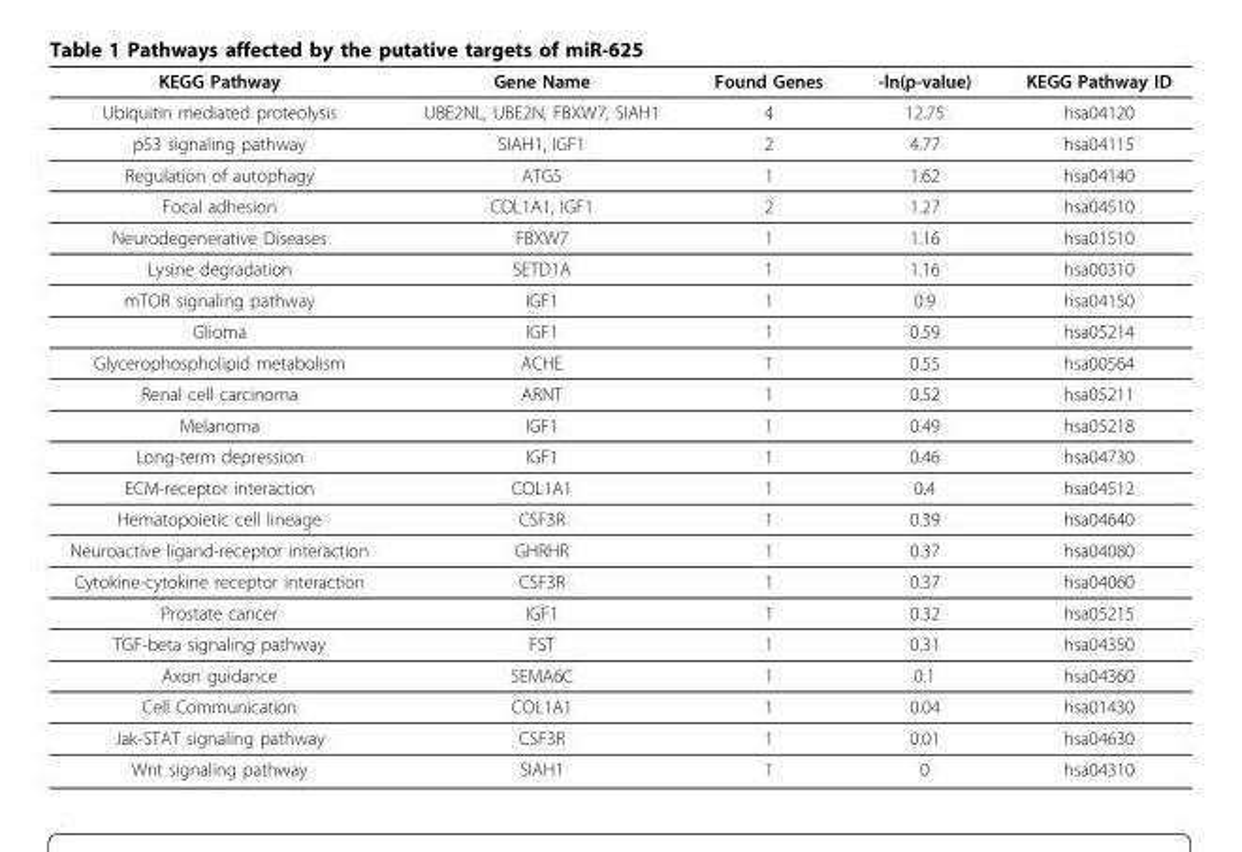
<table><thead><tr><td>KEGG Pathway</td><td>Gene Name</td><td>Found Genes</td><td>-ln(p-value)</td><td>KEGG Pathway ID</td></tr></thead><tbody><tr><td>Ubiquitin mediated proteolysis</td><td>UBE2NL, UBE2N, FBXW7, SIAH1</td><td>4</td><td>12.75</td><td>hsa04120</td></tr><tr><td>p53 signaling pathway</td><td>SIAH1, IGF1</td><td>2</td><td>4.77</td><td>hsa04115</td></tr><tr><td>Regulation of autophagy</td><td>ATG5</td><td>1</td><td>1.62</td><td>hsa04140</td></tr><tr><td>Focal adhesion</td><td>COL1A1, IGF1</td><td>2</td><td>1.27</td><td>hsa04510</td></tr><tr><td>Neurodegenerative Diseases</td><td>FBXW7</td><td>1</td><td>1.16</td><td>hsa01510</td></tr><tr><td>Lysine degradation</td><td>SETD1A</td><td>1</td><td>1.16</td><td>hsa00310</td></tr><tr><td>mTOR signaling pathway</td><td>IGF1</td><td>1</td><td>0.9</td><td>hsa04150</td></tr><tr><td>Glioma</td><td>IGF1</td><td>1</td><td>0.59</td><td>hsa05214</td></tr><tr><td>Glycerophospholipid metabolism</td><td>ACHE</td><td>1</td><td>0.55</td><td>hsa00564</td></tr><tr><td>Renal cell carcinoma</td><td>ARNT</td><td>1</td><td>0.52</td><td>hsa05211</td></tr><tr><td>Melanoma</td><td>IGF1</td><td>1</td><td>0.49</td><td>hsa05218</td></tr><tr><td>Long-term depression</td><td>IGF1</td><td>1</td><td>0.46</td><td>hsa04730</td></tr><tr><td>ECM-receptor interaction</td><td>COL1A1</td><td>1</td><td>0.4</td><td>hsa04512</td></tr><tr><td>Hematopoietic cell lineage</td><td>CSF3R</td><td>1</td><td>0.39</td><td>hsa04640</td></tr><tr><td>Neuroactive ligand-receptor interaction</td><td>GHRHR</td><td>1</td><td>0.37</td><td>hsa04080</td></tr><tr><td>Cytokine-cytokine receptor interaction</td><td>CSF3R</td><td>1</td><td>0.37</td><td>hsa04060</td></tr><tr><td>Prostate cancer</td><td>IGF1</td><td>1</td><td>0.32</td><td>hsa05215</td></tr><tr><td>TGF-beta signaling pathway</td><td>FST</td><td>1</td><td>0.31</td><td>hsa04350</td></tr><tr><td>Axon guidance</td><td>SEMA6C</td><td>1</td><td>0.1</td><td>hsa04360</td></tr><tr><td>Cell Communication</td><td>COL1A1</td><td>1</td><td>0.04</td><td>hsa01430</td></tr><tr><td>Jak-STAT signaling pathway</td><td>CSF3R</td><td>1</td><td>0.01</td><td>hsa04630</td></tr><tr><td>Wnt signaling pathway</td><td>SIAH1</td><td>1</td><td>0</td><td>hsa04310</td></tr></tbody></table>